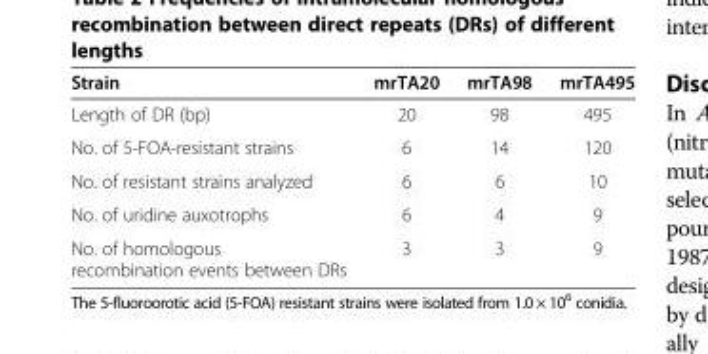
<table><thead><tr><td>Strain</td><td>mrTA20</td><td>mrTA98</td><td>mrTA495</td></tr></thead><tbody><tr><td>Length of DR (bp)</td><td>20</td><td>98</td><td>495</td></tr><tr><td>No. of 5-FOA-resistant strains</td><td>6</td><td>14</td><td>120</td></tr><tr><td>No. of resistant strains analyzed</td><td>6</td><td>6</td><td>10</td></tr><tr><td>No. of uridine auxotrophs</td><td>6</td><td>4</td><td>9</td></tr><tr><td>No. of homologous recombination events between DRs</td><td>3</td><td>3</td><td>9</td></tr></tbody></table>